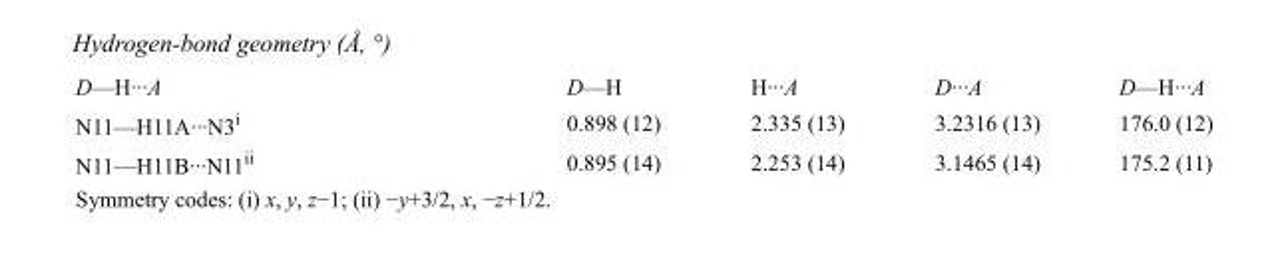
<table><tbody><tr><td>D—H···A</td><td>D—H</td><td>H···A</td><td>D···A</td><td>D—H···A</td></tr><tr><td>N11—H11A···N3<sup>i</sup></td><td>0.898 (12)</td><td>2.335 (13)</td><td>3.2316 (13)</td><td>176.0 (12)</td></tr><tr><td>N11—H11B···N11<sup>ii</sup></td><td>0.895 (14)</td><td>2.253 (14)</td><td>3.1465 (14)</td><td>175.2 (11)</td></tr></tbody></table>